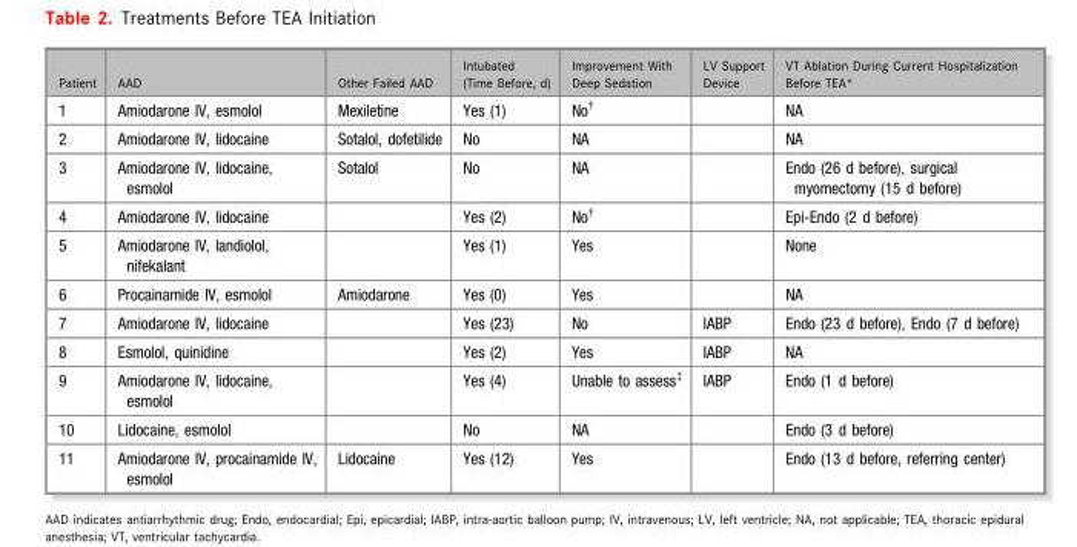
<table><thead><tr><td>Patient</td><td>AAD</td><td>Other Failed AAD</td><td>Intubated (Time Before, d)</td><td>Improvement With Deep Sedation</td><td>LV Support Device</td><td>VT Ablation During Current Hospitalization Before TEA*</td></tr></thead><tbody><tr><td>1</td><td>Amiodarone IV, esmolol</td><td>Mexiletine</td><td>Yes (1)</td><td>No†</td><td></td><td>NA</td></tr><tr><td>2</td><td>Amiodarone IV, lidocaine</td><td>Sotalol, dofetilide</td><td>No</td><td>NA</td><td></td><td>NA</td></tr><tr><td>3</td><td>Amiodarone IV, lidocaine, esmolol</td><td>Sotalol</td><td>No</td><td>NA</td><td></td><td>Endo (26 d before), surgical myomectomy (15 d before)</td></tr><tr><td>4</td><td>Amiodarone IV, lidocaine</td><td></td><td>Yes (2)</td><td>No†</td><td></td><td>Epi-Endo (2 d before)</td></tr><tr><td>5</td><td>Amiodarone IV, landiolol, nifekalant</td><td></td><td>Yes (1)</td><td>Yes</td><td></td><td>None</td></tr><tr><td>6</td><td>Procainamide IV, esmolol</td><td>Amiodarone</td><td>Yes (0)</td><td>Yes</td><td></td><td>NA</td></tr><tr><td>7</td><td>Amiodarone IV, lidocaine</td><td></td><td>Yes (23)</td><td>No</td><td>IABP</td><td>Endo (23 d before), Endo (7 d before)</td></tr><tr><td>8</td><td>Esmolol, quinidine</td><td></td><td>Yes (2)</td><td>Yes</td><td>IABP</td><td>NA</td></tr><tr><td>9</td><td>Amiodarone IV, lidocaine, esmolol</td><td></td><td>Yes (4)</td><td>Unable to assess‡</td><td>IABP</td><td>Endo (1 d before)</td></tr><tr><td>10</td><td>Lidocaine, esmolol</td><td></td><td>No</td><td>NA</td><td></td><td>Endo (3 d before)</td></tr><tr><td>11</td><td>Amiodarone IV, procainamide IV, esmolol</td><td>Lidocaine</td><td>Yes (12)</td><td>Yes</td><td></td><td>Endo (13 d before, referring center)</td></tr></tbody></table>